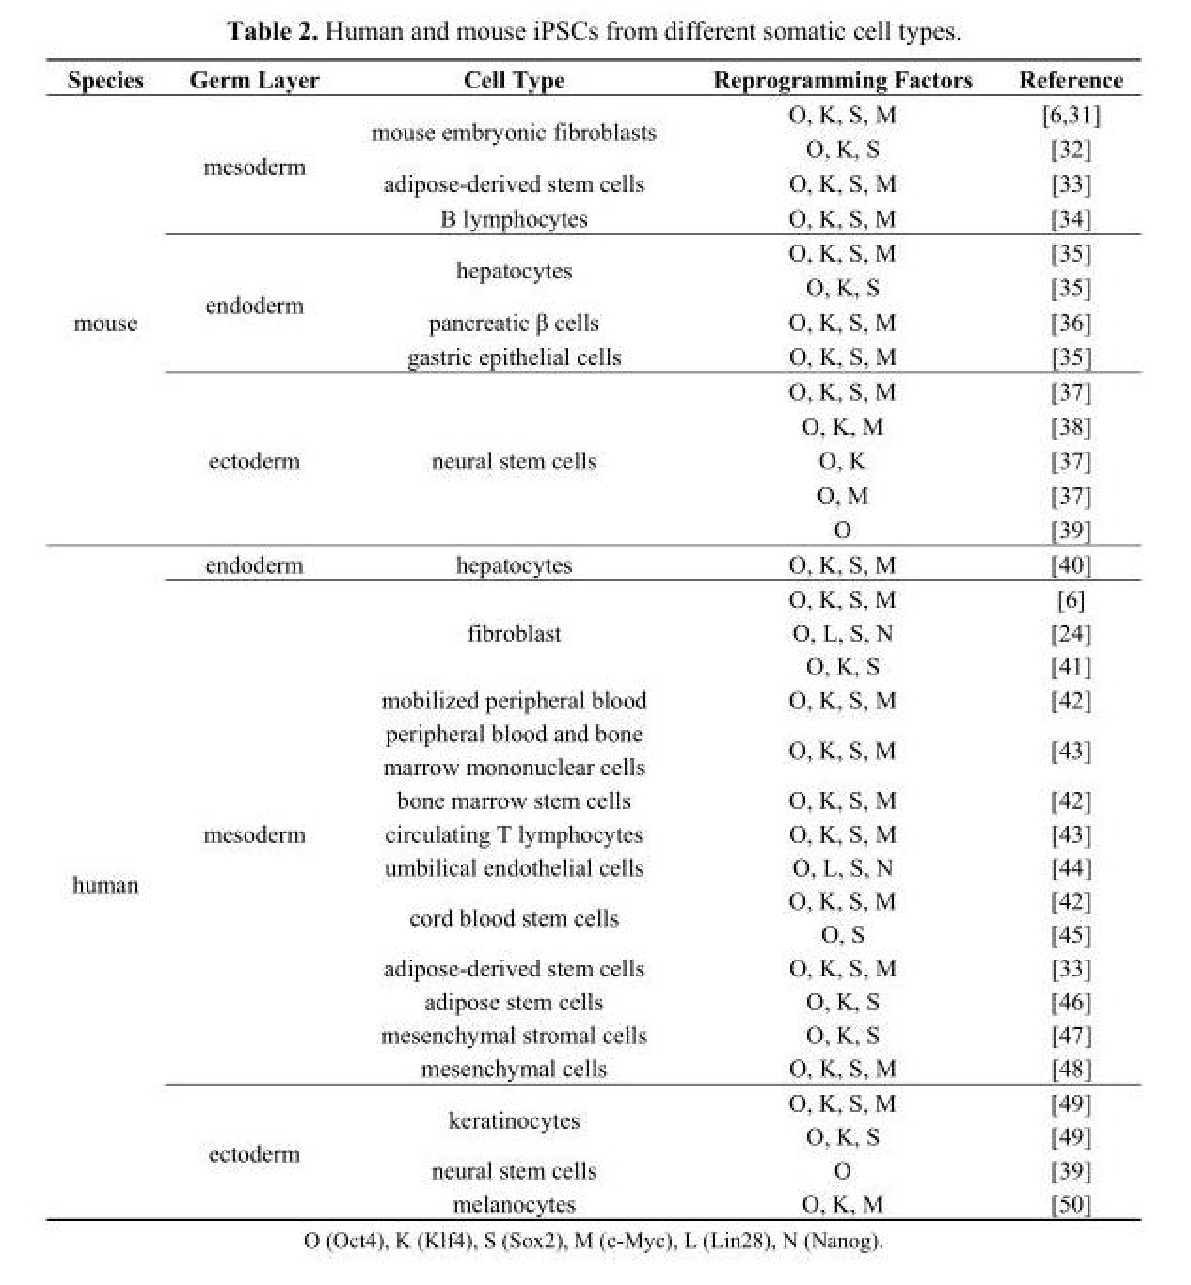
<table><thead><tr><td>Species</td><td>Germ Layer</td><td>Cell Type</td><td>Reprogramming Factors</td><td>Reference</td></tr></thead><tbody><tr><td rowspan="13">mouse</td><td rowspan="4">mesoderm</td><td rowspan="2">mouse embryonic fibroblasts</td><td>O, K, S, M</td><td>[6,31]</td></tr><tr><td>O, K, S</td><td>[32]</td></tr><tr><td>adipose-derived stem cells</td><td>O, K, S, M</td><td>[33]</td></tr><tr><td>B lymphocytes</td><td>O, K, S, M</td><td>[34]</td></tr><tr><td rowspan="4">endoderm</td><td rowspan="2">hepatocytes</td><td>O, K, S, M</td><td>[35]</td></tr><tr><td>O, K, S</td><td>[35]</td></tr><tr><td>pancreatic β cells</td><td>O, K, S, M</td><td>[36]</td></tr><tr><td>gastric epithelial cells</td><td>O, K, S, M</td><td>[35]</td></tr><tr><td rowspan="5">ectoderm</td><td rowspan="5">neural stem cells</td><td>O, K, S, M</td><td>[37]</td></tr><tr><td>O, K, M</td><td>[38]</td></tr><tr><td>O, K</td><td>[37]</td></tr><tr><td>O, M</td><td>[37]</td></tr><tr><td>O</td><td>[39]</td></tr><tr><td rowspan="19">human</td><td>endoderm</td><td>hepatocytes</td><td>O, K, S, M</td><td>[40]</td></tr><tr><td rowspan="14">mesoderm</td><td rowspan="3">fibroblast</td><td>O, K, S, M</td><td>[6]</td></tr><tr><td>O, L, S, N</td><td>[24]</td></tr><tr><td>O, K, S</td><td>[41]</td></tr><tr><td>mobilized peripheral blood</td><td>O, K, S, M</td><td>[42]</td></tr><tr><td>peripheral blood and bone marrow mononuclear cells</td><td>O, K, S, M</td><td>[43]</td></tr><tr><td>bone marrow stem cells</td><td>O, K, S, M</td><td>[42]</td></tr><tr><td>circulating T lymphocytes</td><td>O, K, S, M</td><td>[43]</td></tr><tr><td>umbilical endothelial cells</td><td>O, L, S, N</td><td>[44]</td></tr><tr><td rowspan="2">cord blood stem cells</td><td>O, K, S, M</td><td>[42]</td></tr><tr><td>O, S</td><td>[45]</td></tr><tr><td>adipose-derived stem cells</td><td>O, K, S, M</td><td>[33]</td></tr><tr><td>adipose stem cells</td><td>O, K, S</td><td>[46]</td></tr><tr><td>mesenchymal stromal cells</td><td>O, K, S</td><td>[47]</td></tr><tr><td>mesenchymal cells</td><td>O, K, S, M</td><td>[48]</td></tr><tr><td rowspan="4">ectoderm</td><td rowspan="2">keratinocytes</td><td>O, K, S, M</td><td>[49]</td></tr><tr><td>O, K, S</td><td>[49]</td></tr><tr><td>neural stem cells</td><td>O</td><td>[39]</td></tr><tr><td>melanocytes</td><td>O, K, M</td><td>[50]</td></tr></tbody></table>